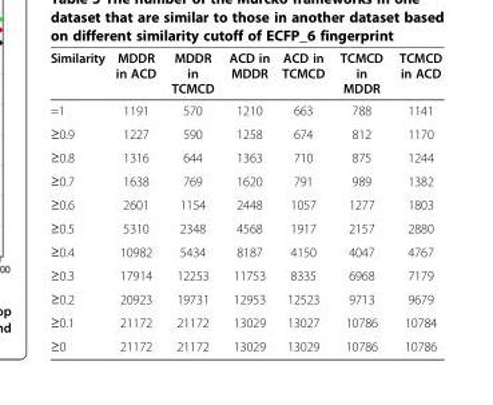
<table><thead><tr><td>Similarity</td><td>MDDR in ACD</td><td>MDDR in TCMCD</td><td>ACD in MDDR</td><td>ACD in TCMCD</td><td>TCMCD in MDDR</td><td>TCMCD in ACD</td></tr></thead><tbody><tr><td>=1</td><td>1191</td><td>570</td><td>1210</td><td>663</td><td>788</td><td>1141</td></tr><tr><td>≥0.9</td><td>1227</td><td>590</td><td>1258</td><td>674</td><td>812</td><td>1170</td></tr><tr><td>≥0.8</td><td>1316</td><td>644</td><td>1363</td><td>710</td><td>875</td><td>1244</td></tr><tr><td>≥0.7</td><td>1638</td><td>769</td><td>1620</td><td>791</td><td>989</td><td>1382</td></tr><tr><td>≥0.6</td><td>2601</td><td>1154</td><td>2448</td><td>1057</td><td>1277</td><td>1803</td></tr><tr><td>≥0.5</td><td>5310</td><td>2348</td><td>4568</td><td>1917</td><td>2157</td><td>2880</td></tr><tr><td>≥0.4</td><td>10982</td><td>5434</td><td>8187</td><td>4150</td><td>4047</td><td>4767</td></tr><tr><td>≥0.3</td><td>17914</td><td>12253</td><td>11753</td><td>8335</td><td>6968</td><td>7179</td></tr><tr><td>≥0.2</td><td>20923</td><td>19731</td><td>12953</td><td>12523</td><td>9713</td><td>9679</td></tr><tr><td>≥0.1</td><td>21172</td><td>21172</td><td>13029</td><td>13027</td><td>10786</td><td>10784</td></tr><tr><td>≥0</td><td>21172</td><td>21172</td><td>13029</td><td>13029</td><td>10786</td><td>10786</td></tr></tbody></table>